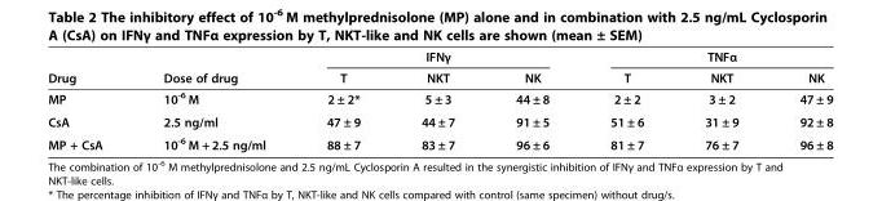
<table><thead><tr><td rowspan="2">Drug</td><td rowspan="2">Dose of drug</td><td colspan="3">IFNγ</td><td colspan="3">TNFα</td></tr><tr><td>T</td><td>NKT</td><td>NK</td><td>T</td><td>NKT</td><td>NK</td></tr></thead><tbody><tr><td>MP</td><td>10<sup>-6</sup> M</td><td>2 ± 2*</td><td>5 ± 3</td><td>44 ± 8</td><td>2 ± 2</td><td>3 ± 2</td><td>47 ± 9</td></tr><tr><td>CsA</td><td>2.5 ng/ml</td><td>47 ± 9</td><td>44 ± 7</td><td>91 ± 5</td><td>51 ± 6</td><td>31 ± 9</td><td>92 ± 8</td></tr><tr><td>MP + CsA</td><td>10<sup>-6</sup> M + 2.5 ng/ml</td><td>88 ± 7</td><td>83 ± 7</td><td>96 ± 6</td><td>81 ± 7</td><td>76 ± 7</td><td>96 ± 8</td></tr></tbody></table>